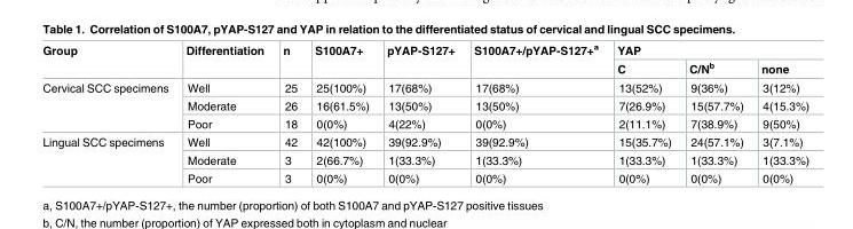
<table><thead><tr><td rowspan="2">Group</td><td rowspan="2">Differentiation</td><td rowspan="2">n</td><td rowspan="2">S100A7+</td><td rowspan="2">pYAP-S127+</td><td rowspan="2">S100A7+/pYAP-S127+<sup>a</sup></td><td colspan="3">YAP</td></tr><tr><td>C</td><td>C/N<sup>b</sup></td><td>none</td></tr></thead><tbody><tr><td rowspan="3">Cervical SCC specimens</td><td>Well</td><td>25</td><td>25(100%)</td><td>17(68%)</td><td>17(68%)</td><td>13(52%)</td><td>9(36%)</td><td>3(12%)</td></tr><tr><td>Moderate</td><td>26</td><td>16(61.5%)</td><td>13(50%)</td><td>13(50%)</td><td>7(26.9%)</td><td>15(57.7%)</td><td>4(15.3%)</td></tr><tr><td>Poor</td><td>18</td><td>0(0%)</td><td>4(22%)</td><td>0(0%)</td><td>2(11.1%)</td><td>7(38.9%)</td><td>9(50%)</td></tr><tr><td rowspan="3">Lingual SCC specimens</td><td>Well</td><td>42</td><td>42(100%)</td><td>39(92.9%)</td><td>39(92.9%)</td><td>15(35.7%)</td><td>24(57.1%)</td><td>3(7.1%)</td></tr><tr><td>Moderate</td><td>3</td><td>2(66.7%)</td><td>1(33.3%)</td><td>1(33.3%)</td><td>1(33.3%)</td><td>1(33.3%)</td><td>1(33.3%)</td></tr><tr><td>Poor</td><td>3</td><td>0(0%)</td><td>0(0%)</td><td>0(0%)</td><td>0(0%)</td><td>0(0%)</td><td>0(0%)</td></tr></tbody></table>